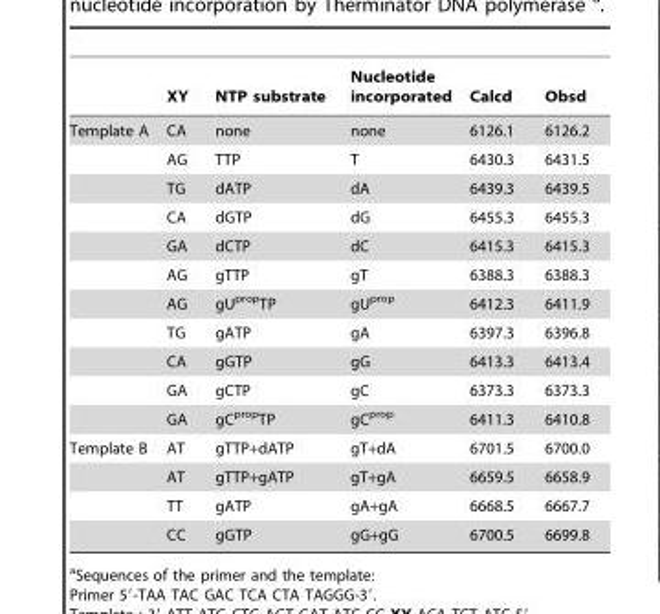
<table><thead><tr><td></td><td>XY</td><td>NTP substrate</td><td>Nucleotide incorporated</td><td>Calcd</td><td>Obsd</td></tr></thead><tbody><tr><td rowspan="11">Template A</td><td>CA</td><td>none</td><td>none</td><td>6126.1</td><td>6126.2</td></tr><tr><td>AG</td><td>TTP</td><td>T</td><td>6430.3</td><td>6431.5</td></tr><tr><td>TG</td><td>dATP</td><td>dA</td><td>6439.3</td><td>6439.5</td></tr><tr><td>CA</td><td>dGTP</td><td>dG</td><td>6455.3</td><td>6455.3</td></tr><tr><td>GA</td><td>dCTP</td><td>dC</td><td>6415.3</td><td>6415.3</td></tr><tr><td>AG</td><td>gTTP</td><td>gT</td><td>6388.3</td><td>6388.3</td></tr><tr><td>AG</td><td>gU<sup>prop</sup>TP</td><td>gU<sup>prop</sup></td><td>6412.3</td><td>6411.9</td></tr><tr><td>TG</td><td>gATP</td><td>gA</td><td>6397.3</td><td>6396.8</td></tr><tr><td>CA</td><td>gGTP</td><td>gG</td><td>6413.3</td><td>6413.4</td></tr><tr><td>GA</td><td>gCTP</td><td>gC</td><td>6373.3</td><td>6373.3</td></tr><tr><td>GA</td><td>gC<sup>prop</sup>TP</td><td>gC<sup>prop</sup></td><td>6411.3</td><td>6410.8</td></tr><tr><td rowspan="4">Template B</td><td>AT</td><td>gTTP+dATP</td><td>gT+dA</td><td>6701.5</td><td>6700.0</td></tr><tr><td>AT</td><td>gTTP+gATP</td><td>gT+gA</td><td>6659.5</td><td>6658.9</td></tr><tr><td>TT</td><td>gATP</td><td>gA+gA</td><td>6668.5</td><td>6667.7</td></tr><tr><td>CC</td><td>gGTP</td><td>gG+gG</td><td>6700.5</td><td>6699.8</td></tr></tbody></table>